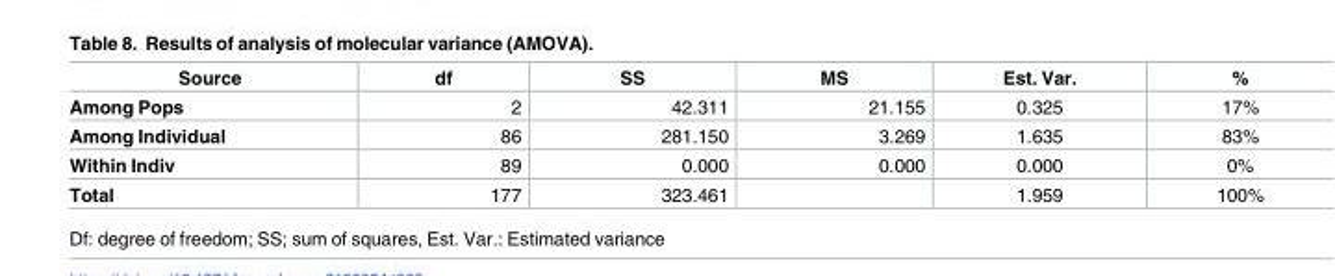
<table><thead><tr><td>Source</td><td>df</td><td>SS</td><td>MS</td><td>Est. Var.</td><td>%</td></tr></thead><tbody><tr><td>Among Pops</td><td>2</td><td>42.311</td><td>21.155</td><td>0.325</td><td>17%</td></tr><tr><td>Among Individual</td><td>86</td><td>281.150</td><td>3.269</td><td>1.635</td><td>83%</td></tr><tr><td>Within Indiv</td><td>89</td><td>0.000</td><td>0.000</td><td>0.000</td><td>0%</td></tr><tr><td>Total</td><td>177</td><td>323.461</td><td></td><td>1.959</td><td>100%</td></tr></tbody></table>